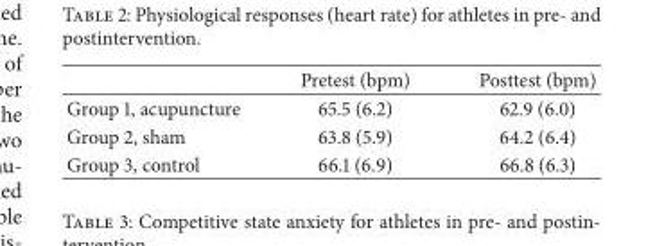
<table><thead><tr><td></td><td>Pretest (bpm)</td><td>Posttest (bpm)</td></tr></thead><tbody><tr><td>Group 1, acupuncture</td><td>65.5 (6.2)</td><td>62.9 (6.0)</td></tr><tr><td>Group 2, sham</td><td>63.8 (5.9)</td><td>64.2 (6.4)</td></tr><tr><td>Group 3, control</td><td>66.1 (6.9)</td><td>66.8 (6.3)</td></tr></tbody></table>